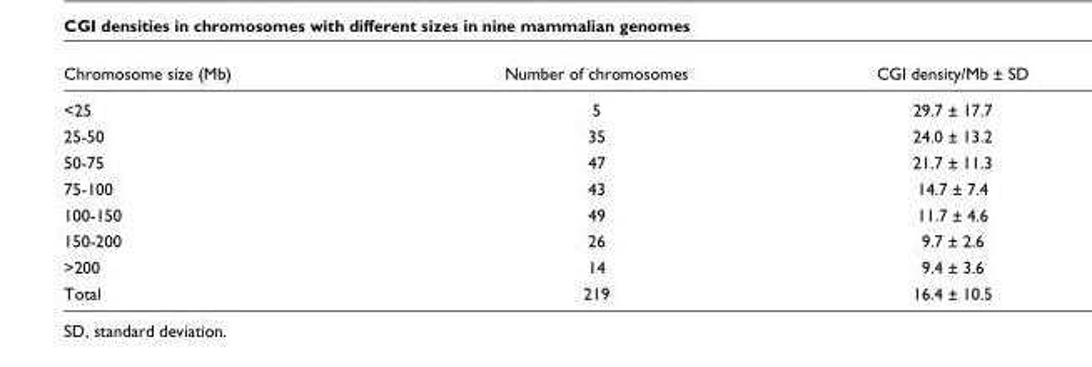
<table><thead><tr><td>Chromosome size (Mb)</td><td>Number of chromosomes</td><td>CGI density/Mb ± SD</td></tr></thead><tbody><tr><td>&lt;25</td><td>5</td><td>29.7 ± 17.7</td></tr><tr><td>25-50</td><td>35</td><td>24.0 ± 13.2</td></tr><tr><td>50-75</td><td>47</td><td>21.7 ± 11.3</td></tr><tr><td>75-100</td><td>43</td><td>14.7 ± 7.4</td></tr><tr><td>100-150</td><td>49</td><td>11.7 ± 4.6</td></tr><tr><td>150-200</td><td>26</td><td>9.7 ± 2.6</td></tr><tr><td>&gt;200</td><td>14</td><td>9.4 ± 3.6</td></tr><tr><td>Total</td><td>219</td><td>16.4 ± 10.5</td></tr></tbody></table>